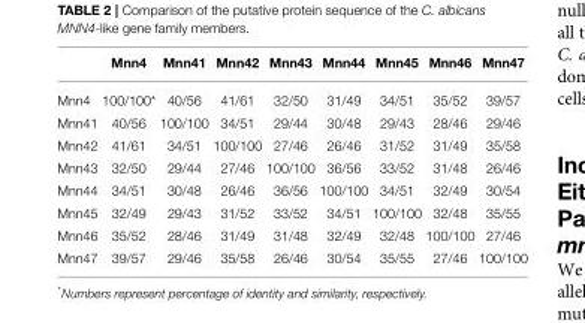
<table><thead><tr><td></td><td>Mnn4</td><td>Mnn41</td><td>Mnn42</td><td>Mnn43</td><td>Mnn44</td><td>Mnn45</td><td>Mnn46</td><td>Mnn47</td></tr></thead><tbody><tr><td>Mnn4</td><td>100/100*</td><td>40/56</td><td>41/61</td><td>32/50</td><td>31/49</td><td>34/51</td><td>35/52</td><td>39/57</td></tr><tr><td>Mnn41</td><td>40/56</td><td>100/100</td><td>34/51</td><td>29/44</td><td>30/48</td><td>29/43</td><td>28/46</td><td>29/46</td></tr><tr><td>Mnn42</td><td>41/61</td><td>34/51</td><td>100/100</td><td>27/46</td><td>26/46</td><td>31/52</td><td>31/49</td><td>35/58</td></tr><tr><td>Mnn43</td><td>32/50</td><td>29/44</td><td>27/46</td><td>100/100</td><td>36/56</td><td>33/52</td><td>31/48</td><td>26/46</td></tr><tr><td>Mnn44</td><td>34/51</td><td>30/48</td><td>26/46</td><td>36/56</td><td>100/100</td><td>34/51</td><td>32/49</td><td>30/54</td></tr><tr><td>Mnn45</td><td>32/49</td><td>29/43</td><td>31/52</td><td>33/52</td><td>34/51</td><td>100/100</td><td>32/48</td><td>35/55</td></tr><tr><td>Mnn46</td><td>35/52</td><td>28/46</td><td>31/49</td><td>31/48</td><td>32/49</td><td>32/48</td><td>100/100</td><td>27/46</td></tr><tr><td>Mnn47</td><td>39/57</td><td>29/46</td><td>35/58</td><td>26/46</td><td>30/54</td><td>35/55</td><td>27/46</td><td>100/100</td></tr></tbody></table>